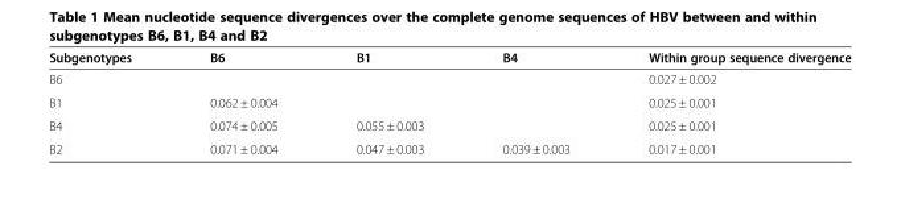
<table><thead><tr><td>Subgenotypes</td><td>B6</td><td>B1</td><td>B4</td><td>Within group sequence divergence</td></tr></thead><tbody><tr><td>B6</td><td></td><td></td><td></td><td>0.027 ± 0.002</td></tr><tr><td>B1</td><td>0.062 ± 0.004</td><td></td><td></td><td>0.025 ± 0.001</td></tr><tr><td>B4</td><td>0.074 ± 0.005</td><td>0.055 ± 0.003</td><td></td><td>0.025 ± 0.001</td></tr><tr><td>B2</td><td>0.071 ± 0.004</td><td>0.047 ± 0.003</td><td>0.039 ± 0.003</td><td>0.017 ± 0.001</td></tr></tbody></table>